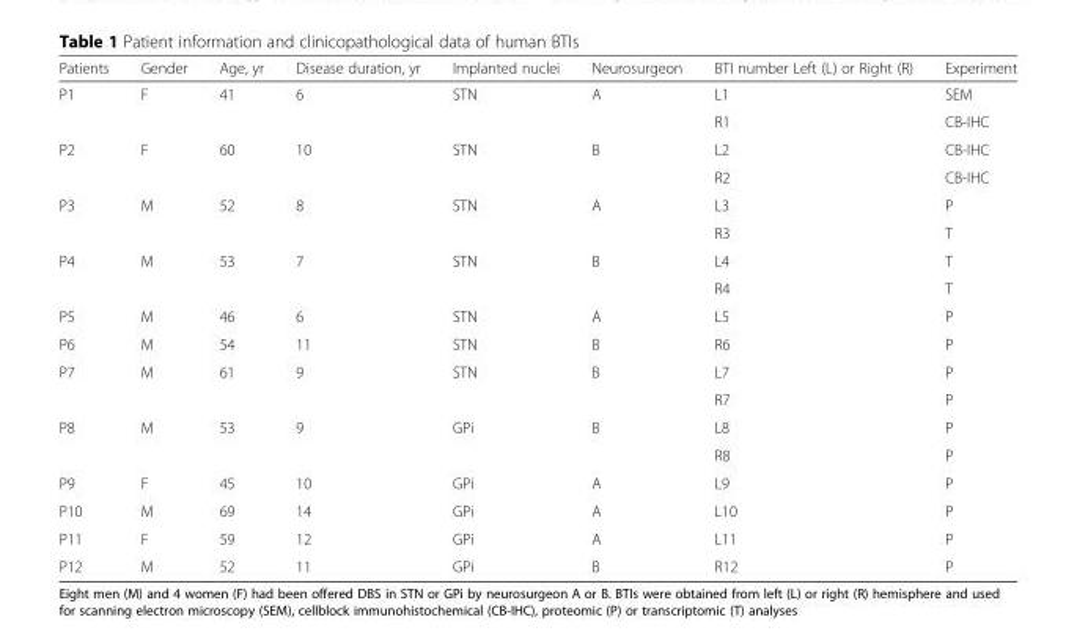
<table><thead><tr><td>Patients</td><td>Gender</td><td>Age, yr</td><td>Disease duration, yr</td><td>Implanted nuclei</td><td>Neurosurgeon</td><td>BTI number Left (L) or Right (R)</td><td>Experiment</td></tr></thead><tbody><tr><td rowspan="2">P1</td><td rowspan="2">F</td><td rowspan="2">41</td><td rowspan="2">6</td><td rowspan="2">STN</td><td rowspan="2">A</td><td>L1</td><td>SEM</td></tr><tr><td>R1</td><td>CB-IHC</td></tr><tr><td rowspan="2">P2</td><td rowspan="2">F</td><td rowspan="2">60</td><td rowspan="2">10</td><td rowspan="2">STN</td><td rowspan="2">B</td><td>L2</td><td>CB-IHC</td></tr><tr><td>R2</td><td>CB-IHC</td></tr><tr><td rowspan="2">P3</td><td rowspan="2">M</td><td rowspan="2">52</td><td rowspan="2">8</td><td rowspan="2">STN</td><td rowspan="2">A</td><td>L3</td><td>P</td></tr><tr><td>R3</td><td>T</td></tr><tr><td rowspan="2">P4</td><td rowspan="2">M</td><td rowspan="2">53</td><td rowspan="2">7</td><td rowspan="2">STN</td><td rowspan="2">B</td><td>L4</td><td>T</td></tr><tr><td>R4</td><td>T</td></tr><tr><td>P5</td><td>M</td><td>46</td><td>6</td><td>STN</td><td>A</td><td>L5</td><td>P</td></tr><tr><td>P6</td><td>M</td><td>54</td><td>11</td><td>STN</td><td>B</td><td>R6</td><td>P</td></tr><tr><td rowspan="2">P7</td><td rowspan="2">M</td><td rowspan="2">61</td><td rowspan="2">9</td><td rowspan="2">STN</td><td rowspan="2">B</td><td>L7</td><td>P</td></tr><tr><td>R7</td><td>P</td></tr><tr><td rowspan="2">P8</td><td rowspan="2">M</td><td rowspan="2">53</td><td rowspan="2">9</td><td rowspan="2">GPi</td><td rowspan="2">B</td><td>L8</td><td>P</td></tr><tr><td>R8</td><td>P</td></tr><tr><td>P9</td><td>F</td><td>45</td><td>10</td><td>GPi</td><td>A</td><td>L9</td><td>P</td></tr><tr><td>P10</td><td>M</td><td>69</td><td>14</td><td>GPi</td><td>A</td><td>L10</td><td>P</td></tr><tr><td>P11</td><td>F</td><td>59</td><td>12</td><td>GPi</td><td>A</td><td>L11</td><td>P</td></tr><tr><td>P12</td><td>M</td><td>52</td><td>11</td><td>GPi</td><td>B</td><td>R12</td><td>P</td></tr></tbody></table>